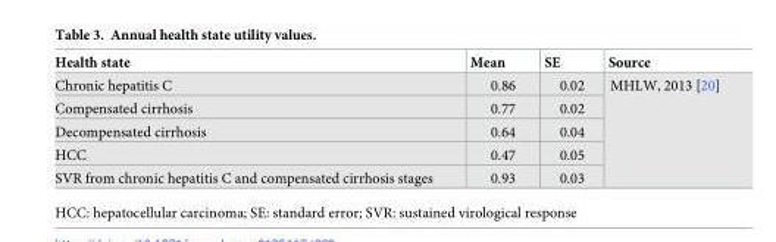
<table><thead><tr><td>Health state</td><td>Mean</td><td>SE</td><td>Source</td></tr></thead><tbody><tr><td>Chronic hepatitis C</td><td>0.86</td><td>0.02</td><td rowspan="5">MHLW, 2013 [20]</td></tr><tr><td>Compensated cirrhosis</td><td>0.77</td><td>0.02</td></tr><tr><td>Decompensated cirrhosis</td><td>0.64</td><td>0.04</td></tr><tr><td>HCC</td><td>0.47</td><td>0.05</td></tr><tr><td>SVR from chronic hepatitis C and compensated cirrhosis stages</td><td>0.93</td><td>0.03</td></tr></tbody></table>